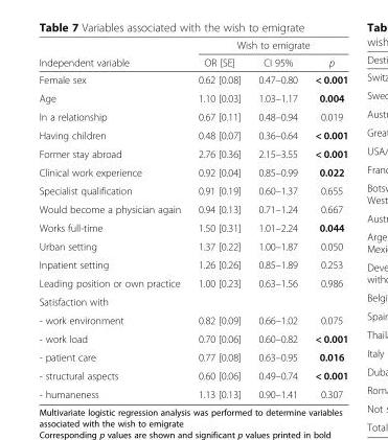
<table><thead><tr><td rowspan="2">Independent variable</td><td colspan="3">Wish to emigrate</td></tr><tr><td>OR [SE]</td><td>CI 95%</td><td>p</td></tr></thead><tbody><tr><td>Female sex</td><td>0.62 [0.08]</td><td>0.47–0.80</td><td>&lt; 0.001</td></tr><tr><td>Age</td><td>1.10 [0.03]</td><td>1.03–1.17</td><td>0.004</td></tr><tr><td>In a relationship</td><td>0.67 [0.11]</td><td>0.48–0.94</td><td>0.019</td></tr><tr><td>Having children</td><td>0.48 [0.07]</td><td>0.36–0.64</td><td>&lt; 0.001</td></tr><tr><td>Former stay abroad</td><td>2.76 [0.36]</td><td>2.15–3.55</td><td>&lt; 0.001</td></tr><tr><td>Clinical work experience</td><td>0.92 [0.04]</td><td>0.85–0.99</td><td>0.022</td></tr><tr><td>Specialist qualification</td><td>0.91 [0.19]</td><td>0.60–1.37</td><td>0.655</td></tr><tr><td>Would become a physician again</td><td>0.94 [0.13]</td><td>0.71–1.24</td><td>0.667</td></tr><tr><td>Works full-time</td><td>1.50 [0.31]</td><td>1.01–2.24</td><td>0.044</td></tr><tr><td>Urban setting</td><td>1.37 [0.22]</td><td>1.00–1.87</td><td>0.050</td></tr><tr><td>Inpatient setting</td><td>1.26 [0.26]</td><td>0.85–1.89</td><td>0.253</td></tr><tr><td>Leading position or own practice</td><td>1.00 [0.23]</td><td>0.63–1.56</td><td>0.986</td></tr><tr><td colspan="4">Satisfaction with</td></tr><tr><td>- work environment</td><td>0.82 [0.09]</td><td>0.66–1.02</td><td>0.075</td></tr><tr><td>- work load</td><td>0.70 [0.06]</td><td>0.60–0.82</td><td>&lt; 0.001</td></tr><tr><td>- patient care</td><td>0.77 [0.08]</td><td>0.63–0.95</td><td>0.016</td></tr><tr><td>- structural aspects</td><td>0.60 [0.06]</td><td>0.49–0.74</td><td>&lt; 0.001</td></tr><tr><td>- humaneness</td><td>1.13 [0.13]</td><td>0.90–1.41</td><td>0.307</td></tr></tbody></table>